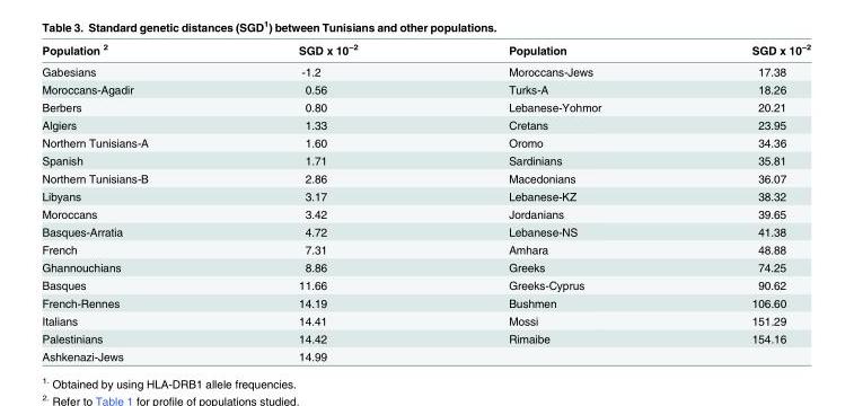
<table><thead><tr><td>Population <sup>2</sup></td><td>SGD x 10<sup>−2</sup></td><td>Population</td><td>SGD x 10<sup>−2</sup></td></tr></thead><tbody><tr><td>Gabesians</td><td>-1.2</td><td>Moroccans-Jews</td><td>17.38</td></tr><tr><td>Moroccans-Agadir</td><td>0.56</td><td>Turks-A</td><td>18.26</td></tr><tr><td>Berbers</td><td>0.80</td><td>Lebanese-Yohmor</td><td>20.21</td></tr><tr><td>Algiers</td><td>1.33</td><td>Cretans</td><td>23.95</td></tr><tr><td>Northern Tunisians-A</td><td>1.60</td><td>Oromo</td><td>34.36</td></tr><tr><td>Spanish</td><td>1.71</td><td>Sardinians</td><td>35.81</td></tr><tr><td>Northern Tunisians-B</td><td>2.86</td><td>Macedonians</td><td>36.07</td></tr><tr><td>Libyans</td><td>3.17</td><td>Lebanese-KZ</td><td>38.32</td></tr><tr><td>Moroccans</td><td>3.42</td><td>Jordanians</td><td>39.65</td></tr><tr><td>Basques-Arratia</td><td>4.72</td><td>Lebanese-NS</td><td>41.38</td></tr><tr><td>French</td><td>7.31</td><td>Amhara</td><td>48.88</td></tr><tr><td>Ghannouchians</td><td>8.86</td><td>Greeks</td><td>74.25</td></tr><tr><td>Basques</td><td>11.66</td><td>Greeks-Cyprus</td><td>90.62</td></tr><tr><td>French-Rennes</td><td>14.19</td><td>Bushmen</td><td>106.60</td></tr><tr><td>Italians</td><td>14.41</td><td>Mossi</td><td>151.29</td></tr><tr><td>Palestinians</td><td>14.42</td><td>Rimaibe</td><td>154.16</td></tr><tr><td>Ashkenazi-Jews</td><td>14.99</td><td></td><td></td></tr></tbody></table>